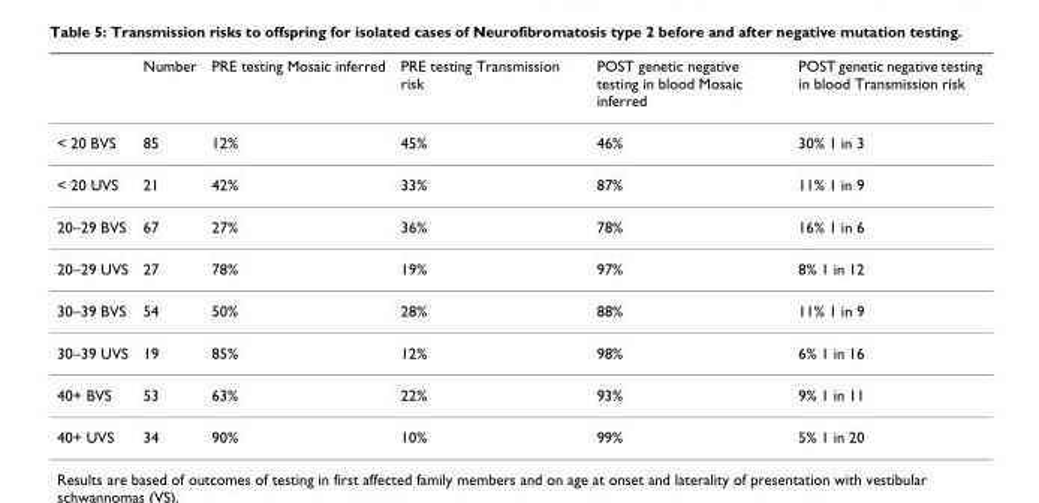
<table><thead><tr><td></td><td>Number</td><td>PRE testing Mosaic inferred</td><td>PRE testing Transmission risk</td><td>POST genetic negative testing in blood Mosaic inferred</td><td>POST genetic negative testing in blood Transmission risk</td></tr></thead><tbody><tr><td>&lt; 20 BVS</td><td>85</td><td>12%</td><td>45%</td><td>46%</td><td>30% 1 in 3</td></tr><tr><td>&lt; 20 UVS</td><td>21</td><td>42%</td><td>33%</td><td>87%</td><td>11% 1 in 9</td></tr><tr><td>20–29 BVS</td><td>67</td><td>27%</td><td>36%</td><td>78%</td><td>16% 1 in 6</td></tr><tr><td>20–29 UVS</td><td>27</td><td>78%</td><td>19%</td><td>97%</td><td>8% 1 in 12</td></tr><tr><td>30–39 BVS</td><td>54</td><td>50%</td><td>28%</td><td>88%</td><td>11% 1 in 9</td></tr><tr><td>30–39 UVS</td><td>19</td><td>85%</td><td>12%</td><td>98%</td><td>6% 1 in 16</td></tr><tr><td>40+ BVS</td><td>53</td><td>63%</td><td>22%</td><td>93%</td><td>9% 1 in 11</td></tr><tr><td>40+ UVS</td><td>34</td><td>90%</td><td>10%</td><td>99%</td><td>5% 1 in 20</td></tr></tbody></table>